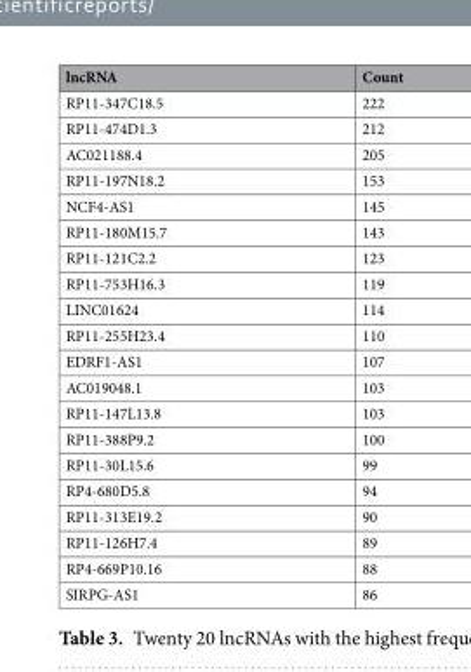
<table><thead><tr><td>lncRNA</td><td>Count</td></tr></thead><tbody><tr><td>RP11-347C18.5</td><td>222</td></tr><tr><td>RP11-474D1.3</td><td>212</td></tr><tr><td>AC021188.4</td><td>205</td></tr><tr><td>RP11-197N18.2</td><td>153</td></tr><tr><td>NCF4-AS1</td><td>145</td></tr><tr><td>RP11-180M15.7</td><td>143</td></tr><tr><td>RP11-121C2.2</td><td>123</td></tr><tr><td>RP11-753H16.3</td><td>119</td></tr><tr><td>LINC01624</td><td>114</td></tr><tr><td>RP11-255H23.4</td><td>110</td></tr><tr><td>EDRF1-AS1</td><td>107</td></tr><tr><td>AC019048.1</td><td>103</td></tr><tr><td>RP11-147L13.8</td><td>103</td></tr><tr><td>RP11-388P9.2</td><td>100</td></tr><tr><td>RP11-30L15.6</td><td>99</td></tr><tr><td>RP4-680D5.8</td><td>94</td></tr><tr><td>RP11-313E19.2</td><td>90</td></tr><tr><td>RP11-126H7.4</td><td>89</td></tr><tr><td>RP4-669P10.16</td><td>88</td></tr><tr><td>SIRPG-AS1</td><td>86</td></tr></tbody></table>